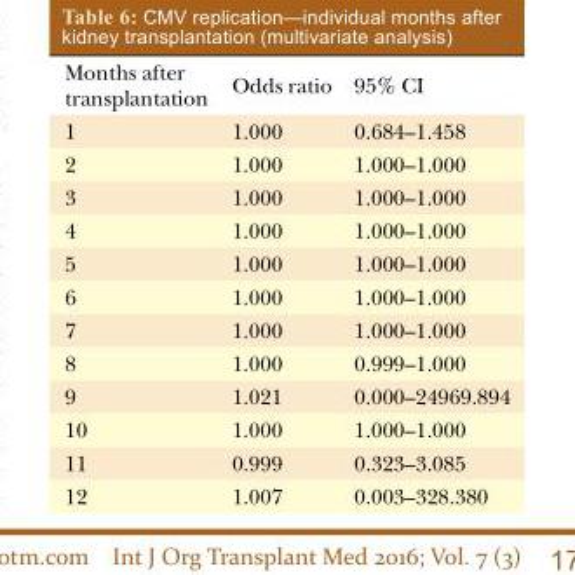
<table><thead><tr><td>Months after transplantation</td><td>Odds ratio</td><td>95% CI</td></tr></thead><tbody><tr><td>1</td><td>1.000</td><td>0.684–1.458</td></tr><tr><td>2</td><td>1.000</td><td>1.000–1.000</td></tr><tr><td>3</td><td>1.000</td><td>1.000–1.000</td></tr><tr><td>4</td><td>1.000</td><td>1.000–1.000</td></tr><tr><td>5</td><td>1.000</td><td>1.000–1.000</td></tr><tr><td>6</td><td>1.000</td><td>1.000–1.000</td></tr><tr><td>7</td><td>1.000</td><td>1.000–1.000</td></tr><tr><td>8</td><td>1.000</td><td>0.999–1.000</td></tr><tr><td>9</td><td>1.021</td><td>0.000–24969.894</td></tr><tr><td>10</td><td>1.000</td><td>1.000–1.000</td></tr><tr><td>11</td><td>0.999</td><td>0.323–3.085</td></tr><tr><td>12</td><td>1.007</td><td>0.003–328.380</td></tr></tbody></table>